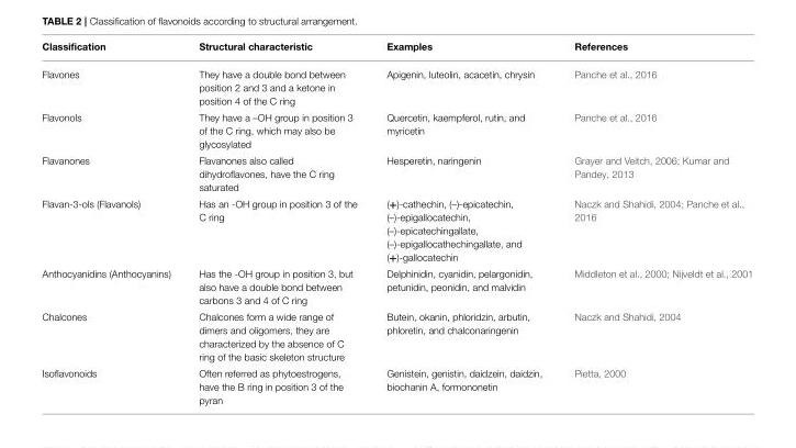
<table><thead><tr><td>Classification</td><td>Structural characteristic</td><td>Examples</td><td>References</td></tr></thead><tbody><tr><td>Flavones</td><td>They have a double bond between position 2 and 3 and a ketone in position 4 of the C ring</td><td>Apigenin, luteolin, acacetin, chrysin</td><td>Panche et al., 2016</td></tr><tr><td>Flavonols</td><td>They have a –OH group in position 3 of the C ring, which may also be glycosylated</td><td>Quercetin, kaempferol, rutin, and myricetin</td><td>Panche et al., 2016</td></tr><tr><td>Flavanones</td><td>Flavanones also called dihydroflavones, have the C ring saturated</td><td>Hesperetin, naringenin</td><td>Grayer and Veitch, 2006; Kumar and Pandey, 2013</td></tr><tr><td>Flavan-3-ols (Flavanols)</td><td>Has an -OH group in position 3 of the C ring</td><td>(+)-cathechin, (–)-epicatechin, (–)-epigallocatechin, (–)-epicatechingallate, (–)-epigallocathechingallate, and (+)-gallocatechin</td><td>Naczk and Shahidi, 2004; Panche et al., 2016</td></tr><tr><td>Anthocyanidins (Anthocyanins)</td><td>Has the -OH group in position 3, but also have a double bond between carbons 3 and 4 of C ring</td><td>Delphinidin, cyanidin, pelargonidin, petunidin, peonidin, and malvidin</td><td>Middleton et al., 2000; Nijveldt et al., 2001</td></tr><tr><td>Chalcones</td><td>Chalcones form a wide range of dimers and oligomers, they are characterized by the absence of C ring of the basic skeleton structure</td><td>Butein, okanin, phloridzin, arbutin, phloretin, and chalconaringenin</td><td>Naczk and Shahidi, 2004</td></tr><tr><td>Isoflavonoids</td><td>Often referred as phytoestrogens, have the B ring in position 3 of the pyran</td><td>Genistein, genistin, daidzein, daidzin, biochanin A, formononetin</td><td>Pietta, 2000</td></tr></tbody></table>